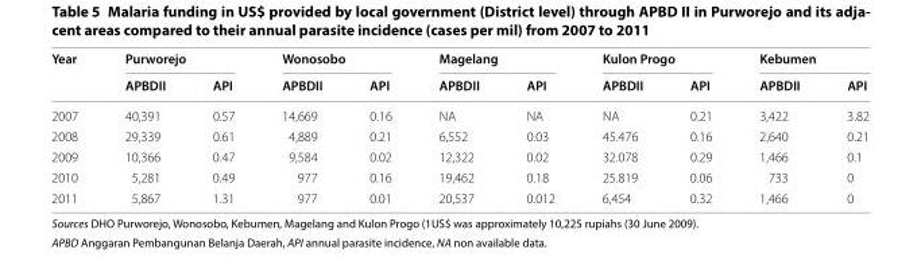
<table><thead><tr><td rowspan="2">Year</td><td colspan="2">Purworejo</td><td colspan="2">Wonosobo</td><td colspan="2">Magelang</td><td colspan="2">Kulon Progo</td><td colspan="2">Kebumen</td></tr><tr><td>APBDII</td><td>API</td><td>APBDII</td><td>API</td><td>APBDII</td><td>API</td><td>APBDII</td><td>API</td><td>APBDII</td><td>API</td></tr></thead><tbody><tr><td>2007</td><td>40,391</td><td>0.57</td><td>14,669</td><td>0.16</td><td>NA</td><td>NA</td><td>NA</td><td>0.21</td><td>3,422</td><td>3.82</td></tr><tr><td>2008</td><td>29,339</td><td>0.61</td><td>4,889</td><td>0.21</td><td>6,552</td><td>0.03</td><td>45.476</td><td>0.16</td><td>2,640</td><td>0.21</td></tr><tr><td>2009</td><td>10,366</td><td>0.47</td><td>9,584</td><td>0.02</td><td>12,322</td><td>0.02</td><td>32.078</td><td>0.29</td><td>1,466</td><td>0.1</td></tr><tr><td>2010</td><td>5,281</td><td>0.49</td><td>977</td><td>0.16</td><td>19,462</td><td>0.18</td><td>25.819</td><td>0.06</td><td>733</td><td>0</td></tr><tr><td>2011</td><td>5,867</td><td>1.31</td><td>977</td><td>0.01</td><td>20,537</td><td>0.012</td><td>6,454</td><td>0.32</td><td>1,466</td><td>0</td></tr></tbody></table>